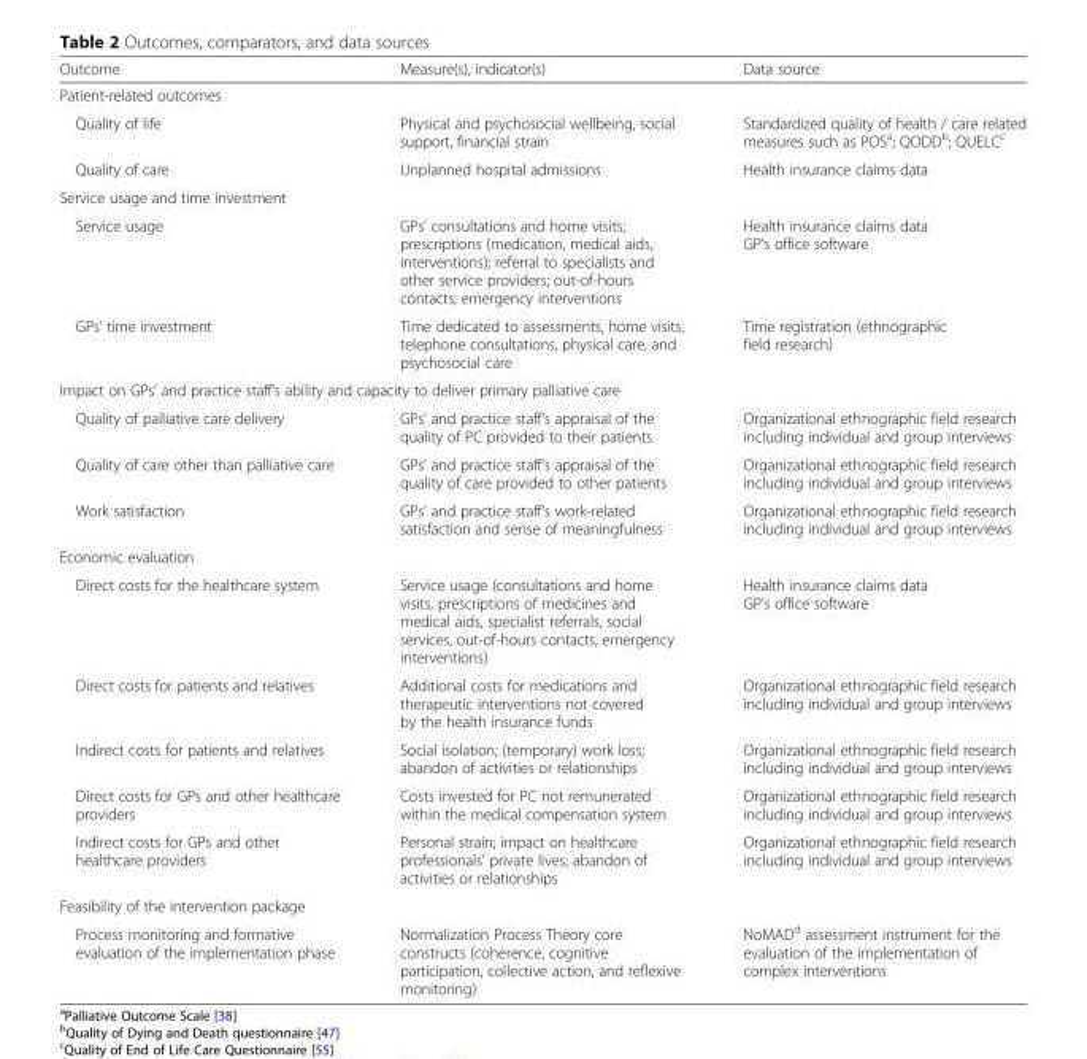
<table><thead><tr><td>Outcome</td><td>Measure(s), indicator(s)</td><td>Data source</td></tr></thead><tbody><tr><td colspan="3">Patient-related outcomes</td></tr><tr><td>Quality of life</td><td>Physical and psychosocial wellbeing, social support, financial strain</td><td>Standardized quality of health / care related measures such as POS<sup>a</sup>; QODD<sup>b</sup>; QUELC<sup>c</sup></td></tr><tr><td>Quality of care</td><td>Unplanned hospital admissions</td><td>Health insurance claims data</td></tr><tr><td colspan="3">Service usage and time investment</td></tr><tr><td>Service usage</td><td>GPs’ consultations and home visits; prescriptions (medication, medical aids, interventions); referral to specialists and other service providers; out-of-hours contacts; emergency interventions</td><td>Health insurance claims data GP’s office software</td></tr><tr><td>GPs’ time investment</td><td>Time dedicated to assessments, home visits, telephone consultations, physical care, and psychosocial care</td><td>Time registration (ethnographic field research)</td></tr><tr><td colspan="3">Impact on GPs’ and practice staff’s ability and capacity to deliver primary palliative care</td></tr><tr><td>Quality of palliative care delivery</td><td>GPs’ and practice staff’s appraisal of the quality of PC provided to their patients</td><td>Organizational ethnographic field research including individual and group interviews</td></tr><tr><td>Quality of care other than palliative care</td><td>GPs’ and practice staff’s appraisal of the quality of care provided to other patients</td><td>Organizational ethnographic field research including individual and group interviews</td></tr><tr><td>Work satisfaction</td><td>GPs’ and practice staff’s work-related satisfaction and sense of meaningfulness</td><td>Organizational ethnographic field research including individual and group interviews</td></tr><tr><td colspan="3">Economic evaluation</td></tr><tr><td>Direct costs for the healthcare system</td><td>Service usage (consultations and home visits, prescriptions of medicines and medical aids, specialist referrals, social services, out-of-hours contacts, emergency interventions)</td><td>Health insurance claims data GP’s office software</td></tr><tr><td>Direct costs for patients and relatives</td><td>Additional costs for medications and therapeutic interventions not covered by the health insurance funds</td><td>Organizational ethnographic field research including individual and group interviews</td></tr><tr><td>Indirect costs for patients and relatives</td><td>Social isolation; (temporary) work loss; abandon of activities or relationships</td><td>Organizational ethnographic field research including individual and group interviews</td></tr><tr><td>Direct costs for GPs and other healthcare providers</td><td>Costs invested for PC not remunerated within the medical compensation system</td><td>Organizational ethnographic field research including individual and group interviews</td></tr><tr><td>Indirect costs for GPs and other healthcare providers</td><td>Personal strain; impact on healthcare professionals’ private lives; abandon of activities or relationships</td><td>Organizational ethnographic field research including individual and group interviews</td></tr><tr><td colspan="3">Feasibility of the intervention package</td></tr><tr><td>Process monitoring and formative evaluation of the implementation phase</td><td>Normalization Process Theory core constructs (coherence, cognitive participation, collective action, and reflexive monitoring)</td><td>NoMAD<sup>d</sup> assessment instrument for the evaluation of the implementation of complex interventions</td></tr></tbody></table>